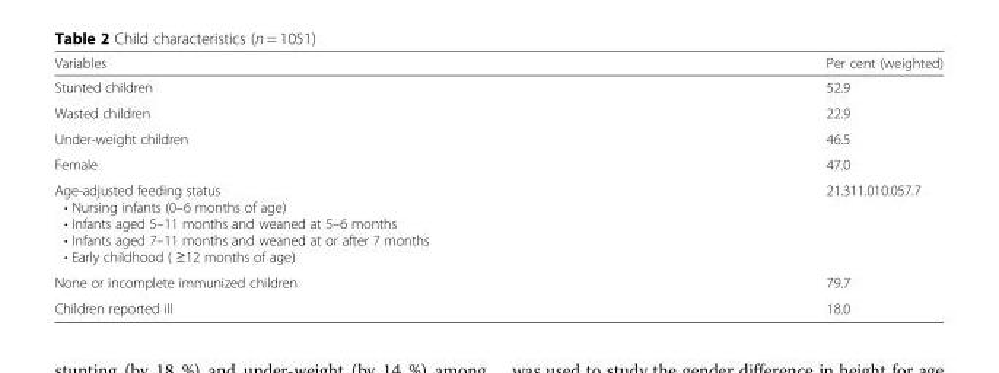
<table><thead><tr><td>Variables</td><td>Per cent (weighted)</td></tr></thead><tbody><tr><td>Stunted children</td><td>52.9</td></tr><tr><td>Wasted children</td><td>22.9</td></tr><tr><td>Under-weight children</td><td>46.5</td></tr><tr><td>Female</td><td>47.0</td></tr><tr><td>Age-adjusted feeding status • Nursing infants (0–6 months of age) • Infants aged 5–11 months and weaned at 5–6 months • Infants aged 7–11 months and weaned at or after 7 months • Early childhood ( ≥12 months of age)</td><td>21.311.010.057.7</td></tr><tr><td>None or incomplete immunized children</td><td>79.7</td></tr><tr><td>Children reported ill</td><td>18.0</td></tr></tbody></table>